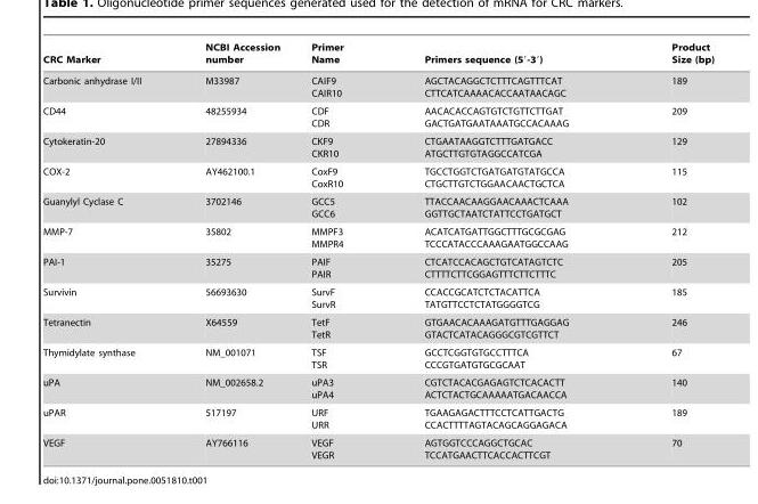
<table><thead><tr><td>CRC Marker</td><td>NCBI Accession number</td><td>Primer Name</td><td>Primers sequence (5′-3′)</td><td>Product Size (bp)</td></tr></thead><tbody><tr><td>Carbonic anhydrase I/II</td><td>M33987</td><td>CAIF9 CAIR10</td><td>AGCTACAGGCTCTTTCAGTTTCAT CTTCATCAAAACACCAATAACAGC</td><td>189</td></tr><tr><td>CD44</td><td>48255934</td><td>CDF CDR</td><td>AACACACCAGTGTCTGTTCTTGAT GACTGATGAATAAATGCCACAAAG</td><td>209</td></tr><tr><td>Cytokeratin-20</td><td>27894336</td><td>CKF9 CKR10</td><td>CTGAATAAGGTCTTTGATGACC ATGCTTGTGTAGGCCATCGA</td><td>129</td></tr><tr><td>COX-2</td><td>AY462100.1</td><td>CoxF9 CoxR10</td><td>TGCCTGGTCTGATGATGTATGCCA CTGCTTGTCTGGAACAACTGCTCA</td><td>115</td></tr><tr><td>Guanylyl Cyclase C</td><td>3702146</td><td>GCC5 GCC6</td><td>TTACCAACAAGGAACAAACTCAAA GGTTGCTAATCTATTCCTGATGCT</td><td>102</td></tr><tr><td>MMP-7</td><td>35802</td><td>MMPF3 MMPR4</td><td>ACATCATGATTGGCTTTGCGCGAG TCCCATACCCAAAGAATGGCCAAG</td><td>212</td></tr><tr><td>PAI-1</td><td>35275</td><td>PAIF PAIR</td><td>CTCATCCACAGCTGTCATAGTCTC CTTTTCTTCGGAGTTTCTTCTTTC</td><td>205</td></tr><tr><td>Survivin</td><td>56693630</td><td>SurvF SurvR</td><td>CCACCGCATCTCTACATTCA TATGTTCCTCTATGGGGTCG</td><td>185</td></tr><tr><td>Tetranectin</td><td>X64559</td><td>TetF TetR</td><td>GTGAACACAAAGATGTTTGAGGAG GTACTCATACAGGGCGTCGTTCT</td><td>246</td></tr><tr><td>Thymidylate synthase</td><td>NM_001071</td><td>TSF TSR</td><td>GCCTCGGTGTGCCTTTCA CCCGTGATGTGCGCAAT</td><td>67</td></tr><tr><td>uPA</td><td>NM_002658.2</td><td>uPA3 uPA4</td><td>CGTCTACACGAGAGTCTCACACTT ACTCTACTGCAAAAATGACAACCA</td><td>140</td></tr><tr><td>uPAR</td><td>517197</td><td>URF URR</td><td>TGAAGAGACTTTCCTCATTGACTG CCACTTTTAGTACAGCAGGAGACA</td><td>189</td></tr><tr><td>VEGF</td><td>AY766116</td><td>VEGF VEGR</td><td>AGTGGTCCCAGGCTGCAC TCCATGAACTTCACCACTTCGT</td><td>70</td></tr></tbody></table>